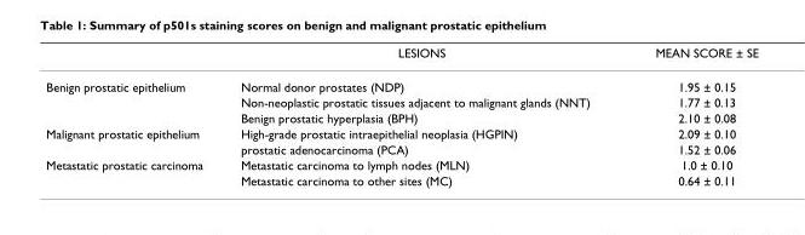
<table><thead><tr><td></td><td>LESIONS</td><td>MEAN SCORE ± SE</td></tr></thead><tbody><tr><td rowspan="3">Benign prostatic epithelium</td><td>Normal donor prostates (NDP)</td><td>1.95 ± 0.15</td></tr><tr><td>Non-neoplastic prostatic tissues adjacent to malignant glands (NNT)</td><td>1.77 ± 0.13</td></tr><tr><td>Benign prostatic hyperplasia (BPH)</td><td>2.10 ± 0.08</td></tr><tr><td rowspan="2">Malignant prostatic epithelium</td><td>High-grade prostatic intraepithelial neoplasia (HGPIN)</td><td>2.09 ± 0.10</td></tr><tr><td>prostatic adenocarcinoma (PCA)</td><td>1.52 ± 0.06</td></tr><tr><td rowspan="2">Metastatic prostatic carcinoma</td><td>Metastatic carcinoma to lymph nodes (MLN)</td><td>1.0 ± 0.10</td></tr><tr><td>Metastatic carcinoma to other sites (MC)</td><td>0.64 ± 0.11</td></tr></tbody></table>